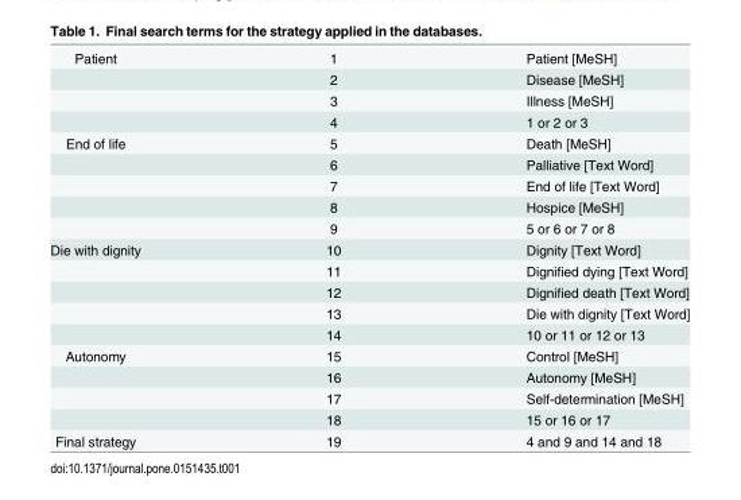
<table><tbody><tr><td rowspan="4">Patient</td><td>1</td><td>Patient [MeSH]</td></tr><tr><td>2</td><td>Disease [MeSH]</td></tr><tr><td>3</td><td>Illness [MeSH]</td></tr><tr><td>4</td><td>1 or 2 or 3</td></tr><tr><td rowspan="5">End of life</td><td>5</td><td>Death [MeSH]</td></tr><tr><td>6</td><td>Palliative [Text Word]</td></tr><tr><td>7</td><td>End of life [Text Word]</td></tr><tr><td>8</td><td>Hospice [MeSH]</td></tr><tr><td>9</td><td>5 or 6 or 7 or 8</td></tr><tr><td rowspan="5">Die with dignity</td><td>10</td><td>Dignity [Text Word]</td></tr><tr><td>11</td><td>Dignified dying [Text Word]</td></tr><tr><td>12</td><td>Dignified death [Text Word]</td></tr><tr><td>13</td><td>Die with dignity [Text Word]</td></tr><tr><td>14</td><td>10 or 11 or 12 or 13</td></tr><tr><td rowspan="4">Autonomy</td><td>15</td><td>Control [MeSH]</td></tr><tr><td>16</td><td>Autonomy [MeSH]</td></tr><tr><td>17</td><td>Self-determination [MeSH]</td></tr><tr><td>18</td><td>15 or 16 or 17</td></tr><tr><td>Final strategy</td><td>19</td><td>4 and 9 and 14 and 18</td></tr></tbody></table>